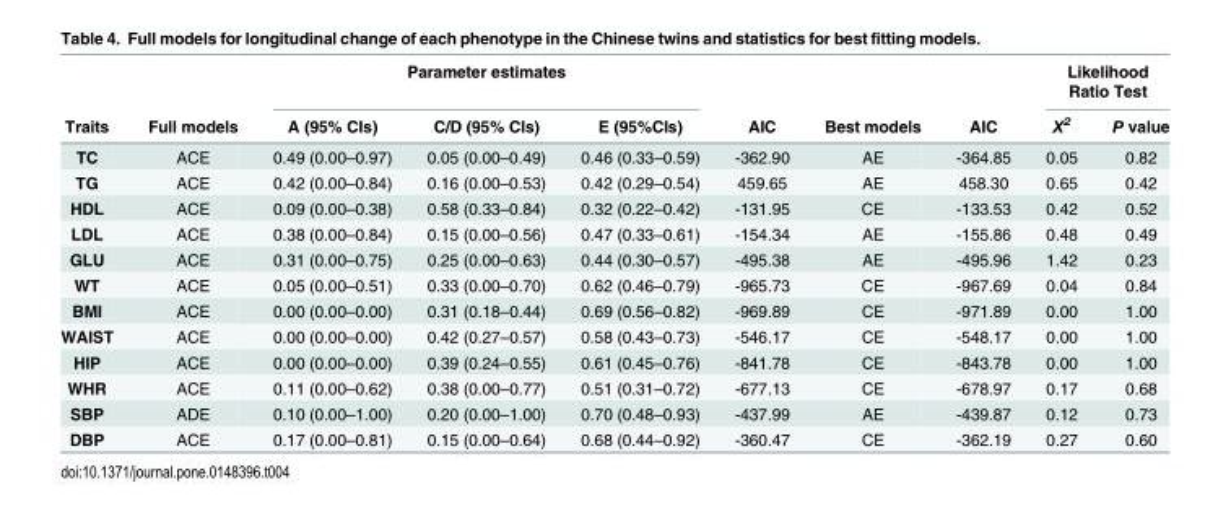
<table><thead><tr><td rowspan="2">Traits</td><td rowspan="2">Full models</td><td colspan="3">Parameter estimates</td><td rowspan="2">AIC</td><td rowspan="2">Best models</td><td rowspan="2">AIC</td><td colspan="2">Likelihood Ratio Test</td></tr><tr><td>A (95% CIs)</td><td>C/D (95% CIs)</td><td>E (95%CIs)</td><td>X<sup>2</sup></td><td>P value</td></tr></thead><tbody><tr><td>TC</td><td>ACE</td><td>0.49 (0.00–0.97)</td><td>0.05 (0.00–0.49)</td><td>0.46 (0.33–0.59)</td><td>-362.90</td><td>AE</td><td>-364.85</td><td>0.05</td><td>0.82</td></tr><tr><td>TG</td><td>ACE</td><td>0.42 (0.00–0.84)</td><td>0.16 (0.00–0.53)</td><td>0.42 (0.29–0.54)</td><td>459.65</td><td>AE</td><td>458.30</td><td>0.65</td><td>0.42</td></tr><tr><td>HDL</td><td>ACE</td><td>0.09 (0.00–0.38)</td><td>0.58 (0.33–0.84)</td><td>0.32 (0.22–0.42)</td><td>-131.95</td><td>CE</td><td>-133.53</td><td>0.42</td><td>0.52</td></tr><tr><td>LDL</td><td>ACE</td><td>0.38 (0.00–0.84)</td><td>0.15 (0.00–0.56)</td><td>0.47 (0.33–0.61)</td><td>-154.34</td><td>AE</td><td>-155.86</td><td>0.48</td><td>0.49</td></tr><tr><td>GLU</td><td>ACE</td><td>0.31 (0.00–0.75)</td><td>0.25 (0.00–0.63)</td><td>0.44 (0.30–0.57)</td><td>-495.38</td><td>AE</td><td>-495.96</td><td>1.42</td><td>0.23</td></tr><tr><td>WT</td><td>ACE</td><td>0.05 (0.00–0.51)</td><td>0.33 (0.00–0.70)</td><td>0.62 (0.46–0.79)</td><td>-965.73</td><td>CE</td><td>-967.69</td><td>0.04</td><td>0.84</td></tr><tr><td>BMI</td><td>ACE</td><td>0.00 (0.00–0.00)</td><td>0.31 (0.18–0.44)</td><td>0.69 (0.56–0.82)</td><td>-969.89</td><td>CE</td><td>-971.89</td><td>0.00</td><td>1.00</td></tr><tr><td>WAIST</td><td>ACE</td><td>0.00 (0.00–0.00)</td><td>0.42 (0.27–0.57)</td><td>0.58 (0.43–0.73)</td><td>-546.17</td><td>CE</td><td>-548.17</td><td>0.00</td><td>1.00</td></tr><tr><td>HIP</td><td>ACE</td><td>0.00 (0.00–0.00)</td><td>0.39 (0.24–0.55)</td><td>0.61 (0.45–0.76)</td><td>-841.78</td><td>CE</td><td>-843.78</td><td>0.00</td><td>1.00</td></tr><tr><td>WHR</td><td>ACE</td><td>0.11 (0.00–0.62)</td><td>0.38 (0.00–0.77)</td><td>0.51 (0.31–0.72)</td><td>-677.13</td><td>CE</td><td>-678.97</td><td>0.17</td><td>0.68</td></tr><tr><td>SBP</td><td>ADE</td><td>0.10 (0.00–1.00)</td><td>0.20 (0.00–1.00)</td><td>0.70 (0.48–0.93)</td><td>-437.99</td><td>AE</td><td>-439.87</td><td>0.12</td><td>0.73</td></tr><tr><td>DBP</td><td>ACE</td><td>0.17 (0.00–0.81)</td><td>0.15 (0.00–0.64)</td><td>0.68 (0.44–0.92)</td><td>-360.47</td><td>CE</td><td>-362.19</td><td>0.27</td><td>0.60</td></tr></tbody></table>